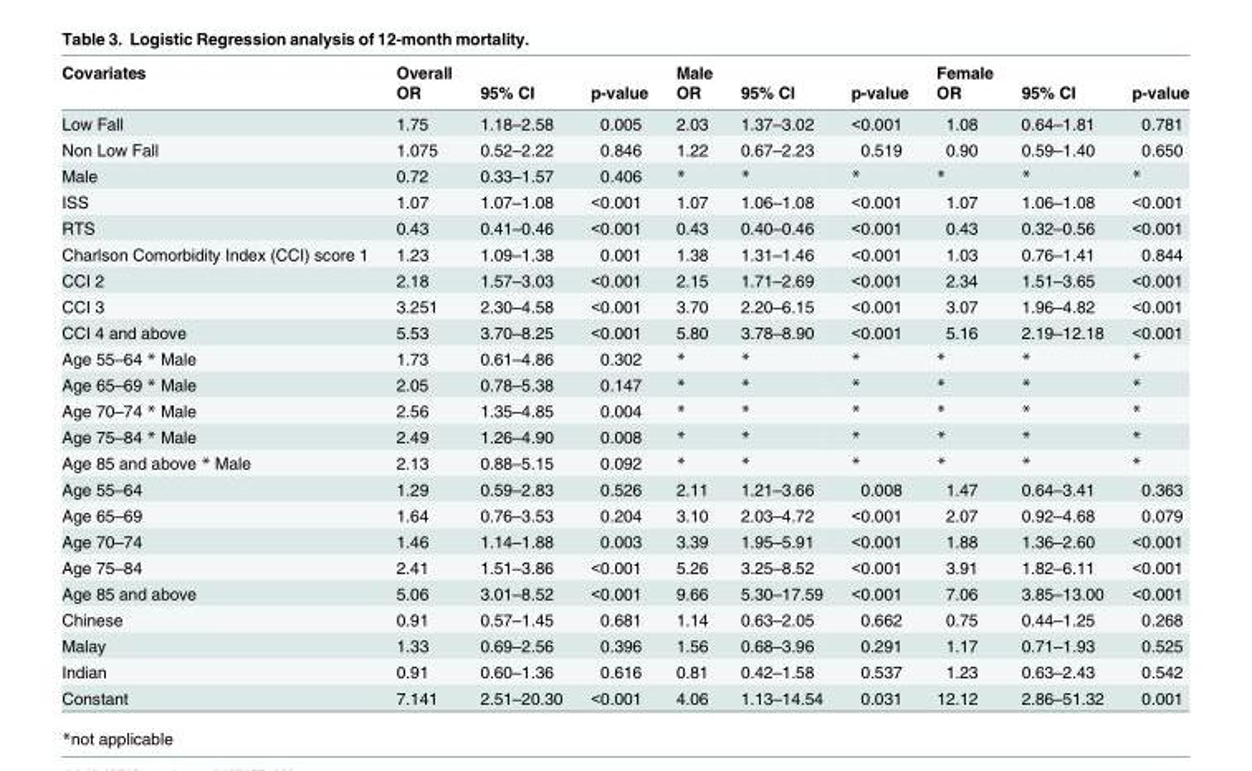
<table><thead><tr><td rowspan="2">Covariates</td><td rowspan="2">Overall OR</td><td rowspan="2">95% CI</td><td rowspan="2">p-value</td><td rowspan="2">Male OR</td><td rowspan="2">95% CI</td><td rowspan="2">p-value</td><td rowspan="2">Female OR</td><td rowspan="2">95% CI</td><td rowspan="2">p-value</td></tr><tr></tr></thead><tbody><tr><td>Low Fall</td><td>1.75</td><td>1.18–2.58</td><td>0.005</td><td>2.03</td><td>1.37–3.02</td><td>&lt;0.001</td><td>1.08</td><td>0.64–1.81</td><td>0.781</td></tr><tr><td>Non Low Fall</td><td>1.075</td><td>0.52–2.22</td><td>0.846</td><td>1.22</td><td>0.67–2.23</td><td>0.519</td><td>0.90</td><td>0.59–1.40</td><td>0.650</td></tr><tr><td>Male</td><td>0.72</td><td>0.33–1.57</td><td>0.406</td><td>*</td><td>*</td><td>*</td><td>*</td><td>*</td><td>*</td></tr><tr><td>ISS</td><td>1.07</td><td>1.07–1.08</td><td>&lt;0.001</td><td>1.07</td><td>1.06–1.08</td><td>&lt;0.001</td><td>1.07</td><td>1.06–1.08</td><td>&lt;0.001</td></tr><tr><td>RTS</td><td>0.43</td><td>0.41–0.46</td><td>&lt;0.001</td><td>0.43</td><td>0.40–0.46</td><td>&lt;0.001</td><td>0.43</td><td>0.32–0.56</td><td>&lt;0.001</td></tr><tr><td>Charlson Comorbidity Index (CCI) score 1</td><td>1.23</td><td>1.09–1.38</td><td>0.001</td><td>1.38</td><td>1.31–1.46</td><td>&lt;0.001</td><td>1.03</td><td>0.76–1.41</td><td>0.844</td></tr><tr><td>CCI 2</td><td>2.18</td><td>1.57–3.03</td><td>&lt;0.001</td><td>2.15</td><td>1.71–2.69</td><td>&lt;0.001</td><td>2.34</td><td>1.51–3.65</td><td>&lt;0.001</td></tr><tr><td>CCI 3</td><td>3.251</td><td>2.30–4.58</td><td>&lt;0.001</td><td>3.70</td><td>2.20–6.15</td><td>&lt;0.001</td><td>3.07</td><td>1.96–4.82</td><td>&lt;0.001</td></tr><tr><td>CCI 4 and above</td><td>5.53</td><td>3.70–8.25</td><td>&lt;0.001</td><td>5.80</td><td>3.78–8.90</td><td>&lt;0.001</td><td>5.16</td><td>2.19–12.18</td><td>&lt;0.001</td></tr><tr><td>Age 55–64 * Male</td><td>1.73</td><td>0.61–4.86</td><td>0.302</td><td>*</td><td>*</td><td>*</td><td>*</td><td>*</td><td>*</td></tr><tr><td>Age 65–69 * Male</td><td>2.05</td><td>0.78–5.38</td><td>0.147</td><td>*</td><td>*</td><td>*</td><td>*</td><td>*</td><td>*</td></tr><tr><td>Age 70–74 * Male</td><td>2.56</td><td>1.35–4.85</td><td>0.004</td><td>*</td><td>*</td><td>*</td><td>*</td><td>*</td><td>*</td></tr><tr><td>Age 75–84 * Male</td><td>2.49</td><td>1.26–4.90</td><td>0.008</td><td>*</td><td>*</td><td>*</td><td>*</td><td>*</td><td>*</td></tr><tr><td>Age 85 and above * Male</td><td>2.13</td><td>0.88–5.15</td><td>0.092</td><td>*</td><td>*</td><td>*</td><td>*</td><td>*</td><td>*</td></tr><tr><td>Age 55–64</td><td>1.29</td><td>0.59–2.83</td><td>0.526</td><td>2.11</td><td>1.21–3.66</td><td>0.008</td><td>1.47</td><td>0.64–3.41</td><td>0.363</td></tr><tr><td>Age 65–69</td><td>1.64</td><td>0.76–3.53</td><td>0.204</td><td>3.10</td><td>2.03–4.72</td><td>&lt;0.001</td><td>2.07</td><td>0.92–4.68</td><td>0.079</td></tr><tr><td>Age 70–74</td><td>1.46</td><td>1.14–1.88</td><td>0.003</td><td>3.39</td><td>1.95–5.91</td><td>&lt;0.001</td><td>1.88</td><td>1.36–2.60</td><td>&lt;0.001</td></tr><tr><td>Age 75–84</td><td>2.41</td><td>1.51–3.86</td><td>&lt;0.001</td><td>5.26</td><td>3.25–8.52</td><td>&lt;0.001</td><td>3.91</td><td>1.82–6.11</td><td>&lt;0.001</td></tr><tr><td>Age 85 and above</td><td>5.06</td><td>3.01–8.52</td><td>&lt;0.001</td><td>9.66</td><td>5.30–17.59</td><td>&lt;0.001</td><td>7.06</td><td>3.85–13.00</td><td>&lt;0.001</td></tr><tr><td>Chinese</td><td>0.91</td><td>0.57–1.45</td><td>0.681</td><td>1.14</td><td>0.63–2.05</td><td>0.662</td><td>0.75</td><td>0.44–1.25</td><td>0.268</td></tr><tr><td>Malay</td><td>1.33</td><td>0.69–2.56</td><td>0.396</td><td>1.56</td><td>0.68–3.96</td><td>0.291</td><td>1.17</td><td>0.71–1.93</td><td>0.525</td></tr><tr><td>Indian</td><td>0.91</td><td>0.60–1.36</td><td>0.616</td><td>0.81</td><td>0.42–1.58</td><td>0.537</td><td>1.23</td><td>0.63–2.43</td><td>0.542</td></tr><tr><td>Constant</td><td>7.141</td><td>2.51–20.30</td><td>&lt;0.001</td><td>4.06</td><td>1.13–14.54</td><td>0.031</td><td>12.12</td><td>2.86–51.32</td><td>0.001</td></tr></tbody></table>